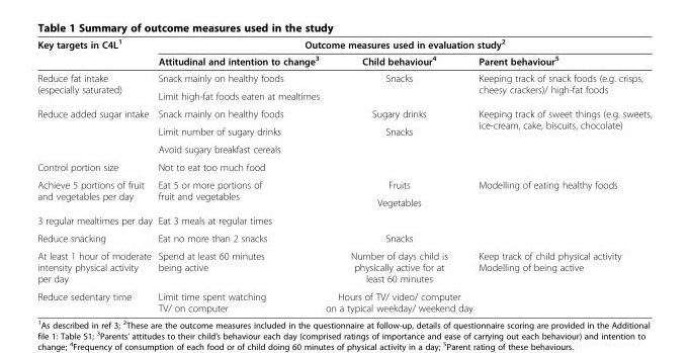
<table><thead><tr><td rowspan="2">Key targets in C4L<sup>1</sup></td><td colspan="3">Outcome measures used in evaluation study<sup>2</sup></td></tr><tr><td>Attitudinal and intention to change<sup>3</sup></td><td>Child behaviour<sup>4</sup></td><td>Parent behaviour<sup>5</sup></td></tr></thead><tbody><tr><td rowspan="2">Reduce fat intake (especially saturated)</td><td>Snack mainly on healthy foods</td><td rowspan="2">Snacks</td><td rowspan="2">Keeping track of snack foods (e.g. crisps, cheesy crackers)/ high-fat foods</td></tr><tr><td>Limit high-fat foods eaten at mealtimes</td></tr><tr><td rowspan="3">Reduce added sugar intake</td><td>Snack mainly on healthy foods</td><td>Sugary drinks</td><td rowspan="3">Keeping track of sweet things (e.g. sweets, ice-cream, cake, biscuits, chocolate)</td></tr><tr><td>Limit number of sugary drinks</td><td rowspan="2">Snacks</td></tr><tr><td>Avoid sugary breakfast cereals</td></tr><tr><td>Control portion size</td><td>Not to eat too much food</td><td></td><td></td></tr><tr><td rowspan="2">Achieve 5 portions of fruit and vegetables per day</td><td rowspan="2">Eat 5 or more portions of fruit and vegetables</td><td>Fruits</td><td rowspan="2">Modelling of eating healthy foods</td></tr><tr><td>Vegetables</td></tr><tr><td>3 regular mealtimes per day</td><td>Eat 3 meals at regular times</td><td></td><td></td></tr><tr><td>Reduce snacking</td><td>Eat no more than 2 snacks</td><td>Snacks</td><td></td></tr><tr><td>At least 1 hour of moderate intensity physical activity per day</td><td>Spend at least 60 minutes being active</td><td>Number of days child is physically active for at least 60 minutes</td><td>Keep track of child physical activity Modelling of being active</td></tr><tr><td>Reduce sedentary time</td><td>Limit time spent watching TV/ on computer</td><td>Hours of TV/ video/ computer on a typical weekday/ weekend day</td><td></td></tr></tbody></table>